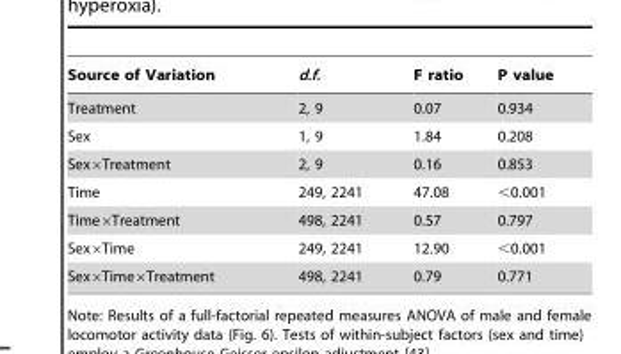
<table><thead><tr><td>Source of Variation</td><td>d.f.</td><td>F ratio</td><td>P value</td></tr></thead><tbody><tr><td>Treatment</td><td>2, 9</td><td>0.07</td><td>0.934</td></tr><tr><td>Sex</td><td>1, 9</td><td>1.84</td><td>0.208</td></tr><tr><td>Sex×Treatment</td><td>2, 9</td><td>0.16</td><td>0.853</td></tr><tr><td>Time</td><td>249, 2241</td><td>47.08</td><td>&lt;0.001</td></tr><tr><td>Time×Treatment</td><td>498, 2241</td><td>0.57</td><td>0.797</td></tr><tr><td>Sex×Time</td><td>249, 2241</td><td>12.90</td><td>&lt;0.001</td></tr><tr><td>Sex×Time×Treatment</td><td>498, 2241</td><td>0.79</td><td>0.771</td></tr></tbody></table>